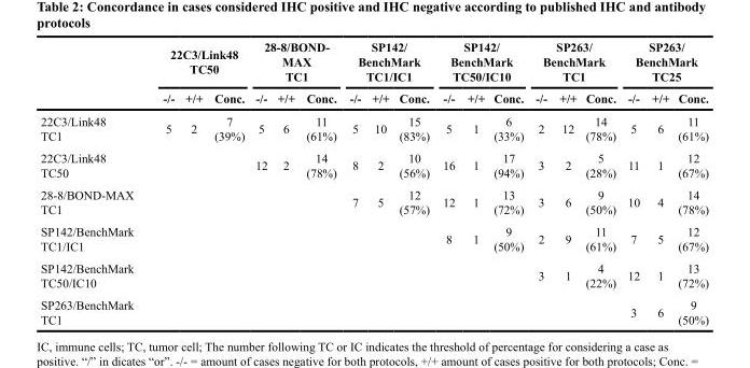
<table><thead><tr><td rowspan="2"></td><td colspan="3">22C3/Link48 TC50</td><td colspan="3">28-8/BOND- MAX TC1</td><td colspan="3">SP142/ BenchMark TC1/IC1</td><td colspan="3">SP142/ BenchMark TC50/IC10</td><td colspan="3">SP263/ BenchMark TC1</td><td colspan="3">SP263/ BenchMark TC25</td></tr><tr><td>-/-</td><td>+/+</td><td>Conc.</td><td>-/-</td><td>+/+</td><td>Conc.</td><td>-/-</td><td>+/+</td><td>Conc.</td><td>-/-</td><td>+/+</td><td>Conc.</td><td>-/-</td><td>+/+</td><td>Conc.</td><td>-/-</td><td>+/+</td><td>Conc.</td></tr></thead><tbody><tr><td>22C3/Link48 TC1</td><td>5</td><td>2</td><td>7 (39%)</td><td>5</td><td>6</td><td>11 (61%)</td><td>5</td><td>10</td><td>15 (83%)</td><td>5</td><td>1</td><td>6 (33%)</td><td>2</td><td>12</td><td>14 (78%)</td><td>5</td><td>6</td><td>11 (61%)</td></tr><tr><td>22C3/Link48 TC50</td><td></td><td></td><td></td><td>12</td><td>2</td><td>14 (78%)</td><td>8</td><td>2</td><td>10 (56%)</td><td>16</td><td>1</td><td>17 (94%)</td><td>3</td><td>2</td><td>5 (28%)</td><td>11</td><td>1</td><td>12 (67%)</td></tr><tr><td>28-8/BOND-MAX TC1</td><td></td><td></td><td></td><td></td><td></td><td></td><td>7</td><td>5</td><td>12 (57%)</td><td>12</td><td>1</td><td>13 (72%)</td><td>3</td><td>6</td><td>9 (50%)</td><td>10</td><td>4</td><td>14 (78%)</td></tr><tr><td>SP142/BenchMark TC1/IC1</td><td></td><td></td><td></td><td></td><td></td><td></td><td></td><td></td><td></td><td>8</td><td>1</td><td>9 (50%)</td><td>2</td><td>9</td><td>11 (61%)</td><td>7</td><td>5</td><td>12 (67%)</td></tr><tr><td>SP142/BenchMark TC50/IC10</td><td></td><td></td><td></td><td></td><td></td><td></td><td></td><td></td><td></td><td></td><td></td><td></td><td>3</td><td>1</td><td>4 (22%)</td><td>12</td><td>1</td><td>13 (72%)</td></tr><tr><td>SP263/BenchMark TC1</td><td></td><td></td><td></td><td></td><td></td><td></td><td></td><td></td><td></td><td></td><td></td><td></td><td></td><td></td><td></td><td>3</td><td>6</td><td>9 (50%)</td></tr></tbody></table>